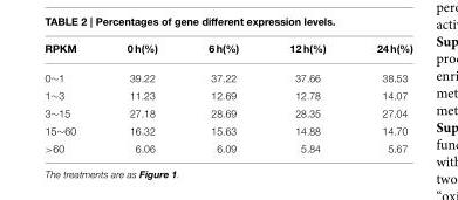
<table><thead><tr><td>RPKM</td><td>0 h(%)</td><td>6 h(%)</td><td>12 h(%)</td><td>24 h(%)</td></tr></thead><tbody><tr><td>0∼1</td><td>39.22</td><td>37.22</td><td>37.66</td><td>38.53</td></tr><tr><td>1∼3</td><td>11.23</td><td>12.69</td><td>12.78</td><td>14.07</td></tr><tr><td>3∼15</td><td>27.18</td><td>28.69</td><td>28.35</td><td>27.04</td></tr><tr><td>15∼60</td><td>16.32</td><td>15.63</td><td>14.88</td><td>14.70</td></tr><tr><td>&gt;60</td><td>6.06</td><td>6.09</td><td>5.84</td><td>5.67</td></tr></tbody></table>